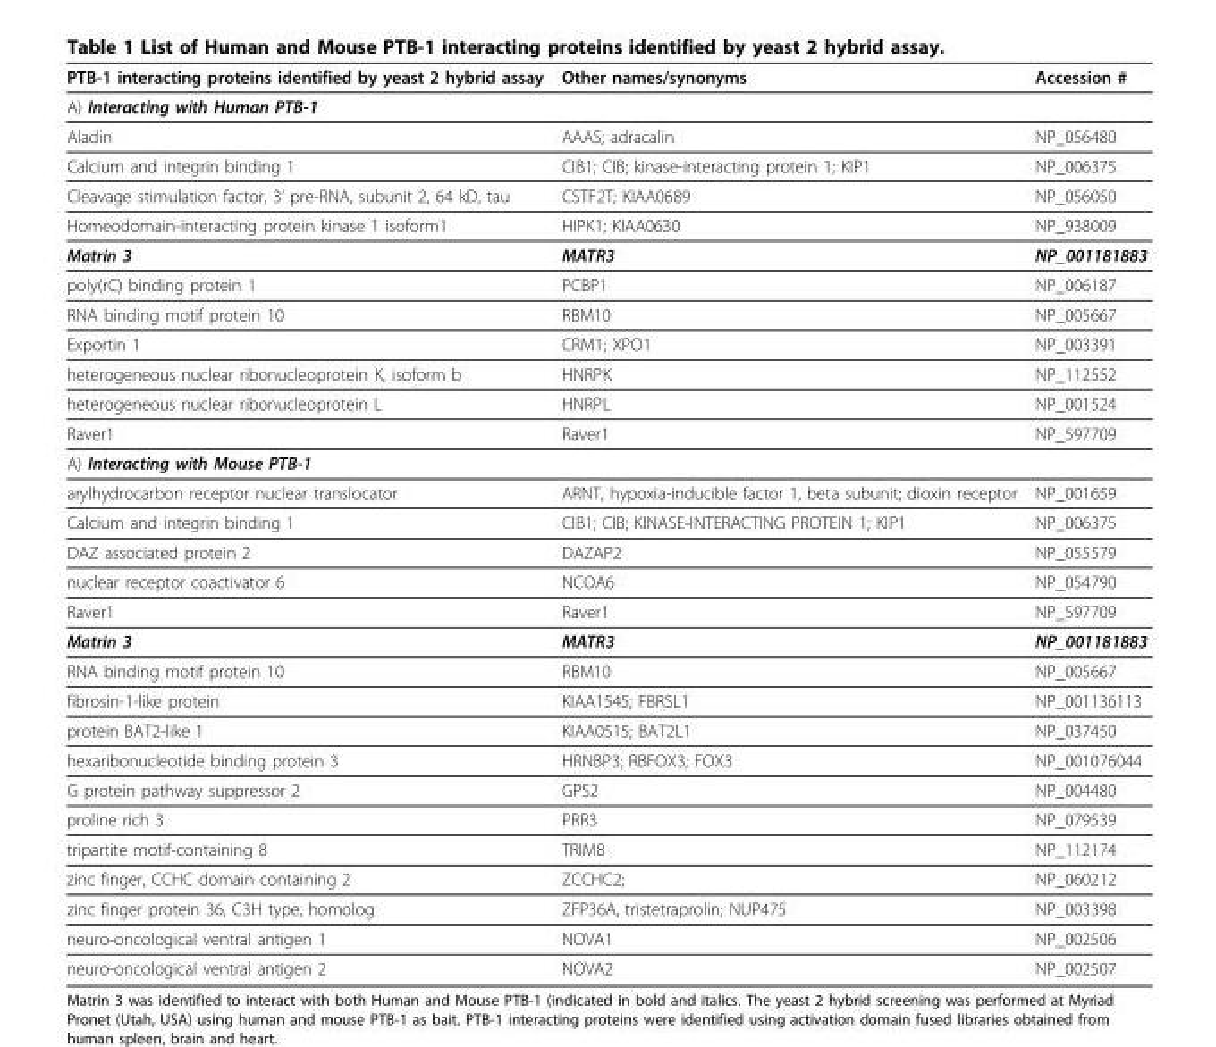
<table><thead><tr><td>PTB-1 interacting proteins identified by yeast 2 hybrid assay</td><td>Other names/synonyms</td><td>Accession #</td></tr></thead><tbody><tr><td colspan="3">A) Interacting with Human PTB-1</td></tr><tr><td>Aladin</td><td>AAAS; adracalin</td><td>NP_056480</td></tr><tr><td>Calcium and integrin binding 1</td><td>CIB1; CIB; kinase-interacting protein 1; KIP1</td><td>NP_006375</td></tr><tr><td>Cleavage stimulation factor, 3’ pre-RNA, subunit 2, 64 kD, tau</td><td>CSTF2T; KIAA0689</td><td>NP_056050</td></tr><tr><td>Homeodomain-interacting protein kinase 1 isoform1</td><td>HIPK1; KIAA0630</td><td>NP_938009</td></tr><tr><td>Matrin 3</td><td>MATR3</td><td>NP_001181883</td></tr><tr><td>poly(rC) binding protein 1</td><td>PCBP1</td><td>NP_006187</td></tr><tr><td>RNA binding motif protein 10</td><td>RBM10</td><td>NP_005667</td></tr><tr><td>Exportin 1</td><td>CRM1; XPO1</td><td>NP_003391</td></tr><tr><td>heterogeneous nuclear ribonucleoprotein K, isoform b</td><td>HNRPK</td><td>NP_112552</td></tr><tr><td>heterogeneous nuclear ribonucleoprotein L</td><td>HNRPL</td><td>NP_001524</td></tr><tr><td>Raver1</td><td>Raver1</td><td>NP_597709</td></tr><tr><td colspan="3">A) Interacting with Mouse PTB-1</td></tr><tr><td>arylhydrocarbon receptor nuclear translocator</td><td>ARNT, hypoxia-inducible factor 1, beta subunit; dioxin receptor</td><td>NP_001659</td></tr><tr><td>Calcium and integrin binding 1</td><td>CIB1; CIB; KINASE-INTERACTING PROTEIN 1; KIP1</td><td>NP_006375</td></tr><tr><td>DAZ associated protein 2</td><td>DAZAP2</td><td>NP_055579</td></tr><tr><td>nuclear receptor coactivator 6</td><td>NCOA6</td><td>NP_054790</td></tr><tr><td>Raver1</td><td>Raver1</td><td>NP_597709</td></tr><tr><td>Matrin 3</td><td>MATR3</td><td>NP_001181883</td></tr><tr><td>RNA binding motif protein 10</td><td>RBM10</td><td>NP_005667</td></tr><tr><td>fibrosin-1-like protein</td><td>KIAA1545; FBRSL1</td><td>NP_001136113</td></tr><tr><td>protein BAT2-like 1</td><td>KIAA0515; BAT2L1</td><td>NP_037450</td></tr><tr><td>hexaribonucleotide binding protein 3</td><td>HRNBP3; RBFOX3; FOX3</td><td>NP_001076044</td></tr><tr><td>G protein pathway suppressor 2</td><td>GPS2</td><td>NP_004480</td></tr><tr><td>proline rich 3</td><td>PRR3</td><td>NP_079539</td></tr><tr><td>tripartite motif-containing 8</td><td>TRIM8</td><td>NP_112174</td></tr><tr><td>zinc finger, CCHC domain containing 2</td><td>ZCCHC2;</td><td>NP_060212</td></tr><tr><td>zinc finger protein 36, C3H type, homolog</td><td>ZFP36A, tristetraprolin; NUP475</td><td>NP_003398</td></tr><tr><td>neuro-oncological ventral antigen 1</td><td>NOVA1</td><td>NP_002506</td></tr><tr><td>neuro-oncological ventral antigen 2</td><td>NOVA2</td><td>NP_002507</td></tr></tbody></table>